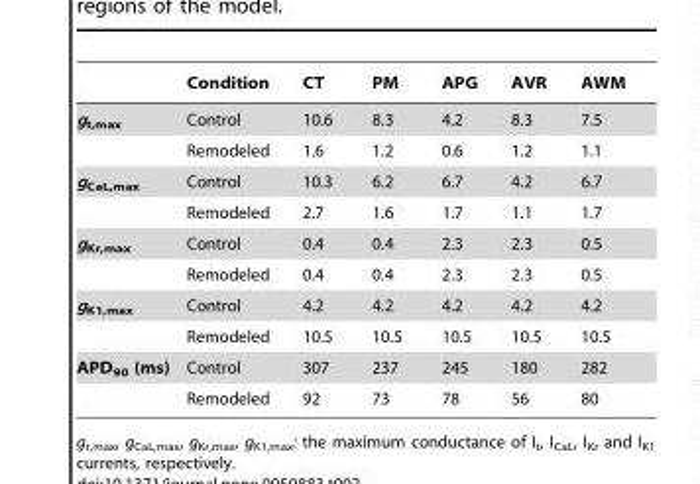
<table><thead><tr><td></td><td>Condition</td><td>CT</td><td>PM</td><td>APG</td><td>AVR</td><td>AWM</td></tr></thead><tbody><tr><td rowspan="2">g<sub>t,max</sub></td><td>Control</td><td>10.6</td><td>8.3</td><td>4.2</td><td>8.3</td><td>7.5</td></tr><tr><td>Remodeled</td><td>1.6</td><td>1.2</td><td>0.6</td><td>1.2</td><td>1.1</td></tr><tr><td rowspan="2">g<sub>CaL,max</sub></td><td>Control</td><td>10.3</td><td>6.2</td><td>6.7</td><td>4.2</td><td>6.7</td></tr><tr><td>Remodeled</td><td>2.7</td><td>1.6</td><td>1.7</td><td>1.1</td><td>1.7</td></tr><tr><td rowspan="2">g<sub>Kr,max</sub></td><td>Control</td><td>0.4</td><td>0.4</td><td>2.3</td><td>2.3</td><td>0.5</td></tr><tr><td>Remodeled</td><td>0.4</td><td>0.4</td><td>2.3</td><td>2.3</td><td>0.5</td></tr><tr><td rowspan="2">g<sub>K1,max</sub></td><td>Control</td><td>4.2</td><td>4.2</td><td>4.2</td><td>4.2</td><td>4.2</td></tr><tr><td>Remodeled</td><td>10.5</td><td>10.5</td><td>10.5</td><td>10.5</td><td>10.5</td></tr><tr><td rowspan="2">APD<sub>90</sub> (ms)</td><td>Control</td><td>307</td><td>237</td><td>245</td><td>180</td><td>282</td></tr><tr><td>Remodeled</td><td>92</td><td>73</td><td>78</td><td>56</td><td>80</td></tr></tbody></table>